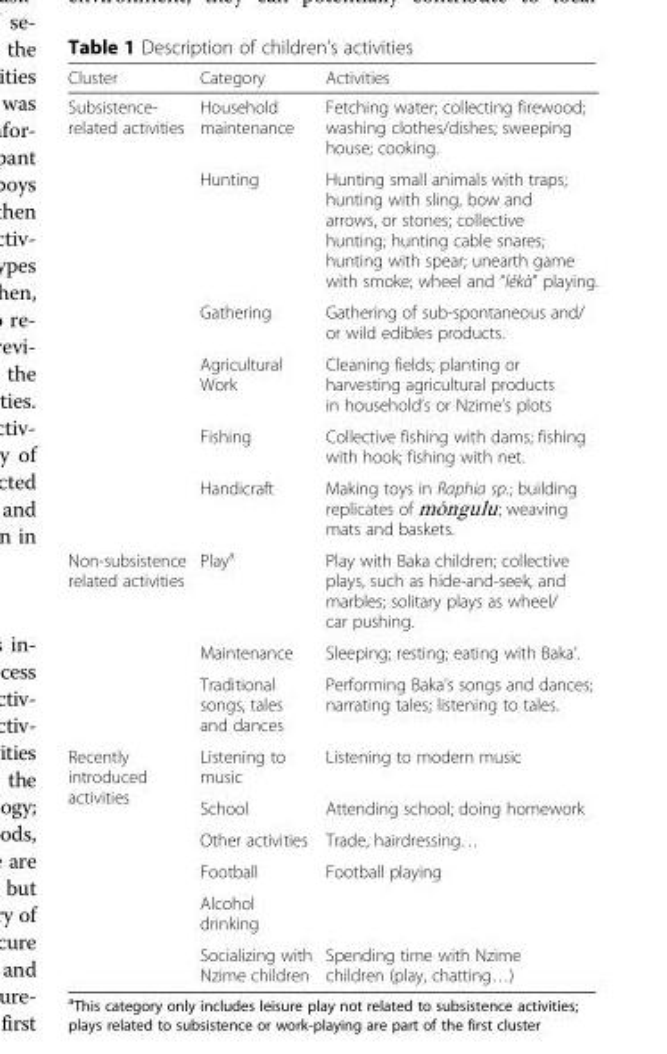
<table><thead><tr><td>Cluster</td><td>Category</td><td>Activities</td></tr></thead><tbody><tr><td rowspan="6">Subsistence- related activities</td><td>Household maintenance</td><td>Fetching water; collecting firewood; washing clothes/dishes; sweeping house; cooking.</td></tr><tr><td>Hunting</td><td>Hunting small animals with traps; hunting with sling, bow and arrows, or stones; collective hunting; hunting cable snares; hunting with spear; unearth game with smoke; wheel and “lékà” playing.</td></tr><tr><td>Gathering</td><td>Gathering of sub-spontaneous and/ or wild edibles products.</td></tr><tr><td>Agricultural Work</td><td>Cleaning fields; planting or harvesting agricultural products in household’s or Nzime’s plots</td></tr><tr><td>Fishing</td><td>Collective fishing with dams; fishing with hook; fishing with net.</td></tr><tr><td>Handicraft</td><td>Making toys in Raphia sp.; building replicates of ; weaving mats and baskets.</td></tr><tr><td rowspan="3">Non-subsistence related activities</td><td>Play<sup>a</sup></td><td>Play with Baka children; collective plays, such as hide-and-seek, and marbles; solitary plays as wheel/ car pushing.</td></tr><tr><td>Maintenance</td><td>Sleeping; resting; eating with Baka’.</td></tr><tr><td>Traditional songs, tales and dances</td><td>Performing Baka’s songs and dances; narrating tales; listening to tales.</td></tr><tr><td rowspan="6">Recently introduced activities</td><td>Listening to music</td><td>Listening to modern music</td></tr><tr><td>School</td><td>Attending school; doing homework</td></tr><tr><td>Other activities</td><td>Trade, hairdressing…</td></tr><tr><td>Football</td><td>Football playing</td></tr><tr><td>Alcohol drinking</td><td></td></tr><tr><td>Socializing with Nzime children</td><td>Spending time with Nzime children (play, chatting…)</td></tr></tbody></table>